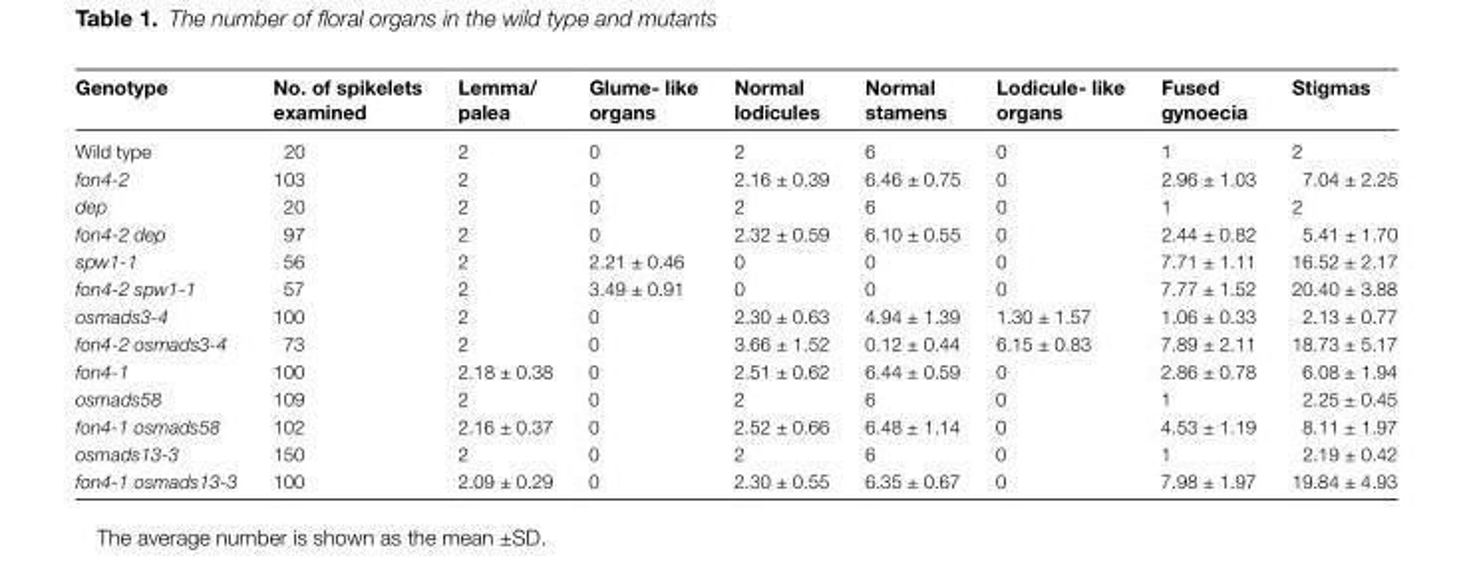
<table><thead><tr><td>Genotype</td><td>No. of spikelets examined</td><td>Lemma/ palea</td><td>Glume- like organs</td><td>Normal lodicules</td><td>Normal stamens</td><td>Lodicule- like organs</td><td>Fused gynoecia</td><td>Stigmas</td></tr></thead><tbody><tr><td>Wild type</td><td>20</td><td>2</td><td>0</td><td>2</td><td>6</td><td>0</td><td>1</td><td>2</td></tr><tr><td>fon4-2</td><td>103</td><td>2</td><td>0</td><td>2.16 ± 0.39</td><td>6.46 ± 0.75</td><td>0</td><td>2.96 ± 1.03</td><td>7.04 ± 2.25</td></tr><tr><td>dep</td><td>20</td><td>2</td><td>0</td><td>2</td><td>6</td><td>0</td><td>1</td><td>2</td></tr><tr><td>fon4-2 dep</td><td>97</td><td>2</td><td>0</td><td>2.32 ± 0.59</td><td>6.10 ± 0.55</td><td>0</td><td>2.44 ± 0.82</td><td>5.41 ± 1.70</td></tr><tr><td>spw1-1</td><td>56</td><td>2</td><td>2.21 ± 0.46</td><td>0</td><td>0</td><td>0</td><td>7.71 ± 1.11</td><td>16.52 ± 2.17</td></tr><tr><td>fon4-2 spw1-1</td><td>57</td><td>2</td><td>3.49 ± 0.91</td><td>0</td><td>0</td><td>0</td><td>7.77 ± 1.52</td><td>20.40 ± 3.88</td></tr><tr><td>osmads3-4</td><td>100</td><td>2</td><td>0</td><td>2.30 ± 0.63</td><td>4.94 ± 1.39</td><td>1.30 ± 1.57</td><td>1.06 ± 0.33</td><td>2.13 ± 0.77</td></tr><tr><td>fon4-2 osmads3-4</td><td>73</td><td>2</td><td>0</td><td>3.66 ± 1.52</td><td>0.12 ± 0.44</td><td>6.15 ± 0.83</td><td>7.89 ± 2.11</td><td>18.73 ± 5.17</td></tr><tr><td>fon4-1</td><td>100</td><td>2.18 ± 0.38</td><td>0</td><td>2.51 ± 0.62</td><td>6.44 ± 0.59</td><td>0</td><td>2.86 ± 0.78</td><td>6.08 ± 1.94</td></tr><tr><td>osmads58</td><td>109</td><td>2</td><td>0</td><td>2</td><td>6</td><td>0</td><td>1</td><td>2.25 ± 0.45</td></tr><tr><td>fon4-1 osmads58</td><td>102</td><td>2.16 ± 0.37</td><td>0</td><td>2.52 ± 0.66</td><td>6.48 ± 1.14</td><td>0</td><td>4.53 ± 1.19</td><td>8.11 ± 1.97</td></tr><tr><td>osmads13-3</td><td>150</td><td>2</td><td>0</td><td>2</td><td>6</td><td>0</td><td>1</td><td>2.19 ± 0.42</td></tr><tr><td>fon4-1 osmads13-3</td><td>100</td><td>2.09 ± 0.29</td><td>0</td><td>2.30 ± 0.55</td><td>6.35 ± 0.67</td><td>0</td><td>7.98 ± 1.97</td><td>19.84 ± 4.93</td></tr></tbody></table>